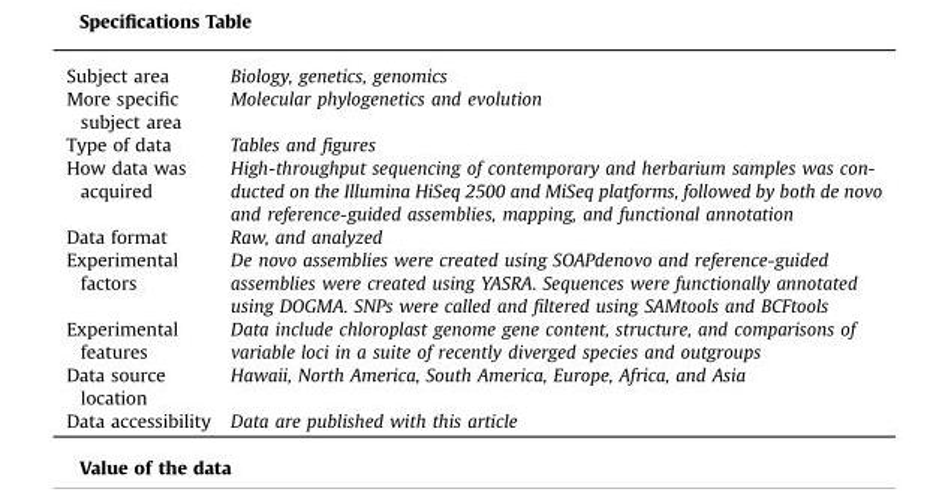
<table><tbody><tr><td>Subject area</td><td>Biology, genetics, genomics</td></tr><tr><td>More specific subject area</td><td>Molecular phylogenetics and evolution</td></tr><tr><td>Type of data</td><td>Tables and figures</td></tr><tr><td>How data was acquired</td><td>High-throughput sequencing of contemporary and herbarium samples was con- ducted on the Illumina HiSeq 2500 and MiSeq platforms, followed by both de novo and reference-guided assemblies, mapping, and functional annotation</td></tr><tr><td>Data format</td><td>Raw, and analyzed</td></tr><tr><td>Experimental factors</td><td>De novo assemblies were created using SOAPdenovo and reference-guided assemblies were created using YASRA. Sequences were functionally annotated using DOGMA. SNPs were called and filtered using SAMtools and BCFtools</td></tr><tr><td>Experimental features</td><td>Data include chloroplast genome gene content, structure, and comparisons of variable loci in a suite of recently diverged species and outgroups</td></tr><tr><td>Data source location</td><td>Hawaii, North America, South America, Europe, Africa, and Asia</td></tr><tr><td>Data accessibility</td><td>Data are published with this article</td></tr></tbody></table>